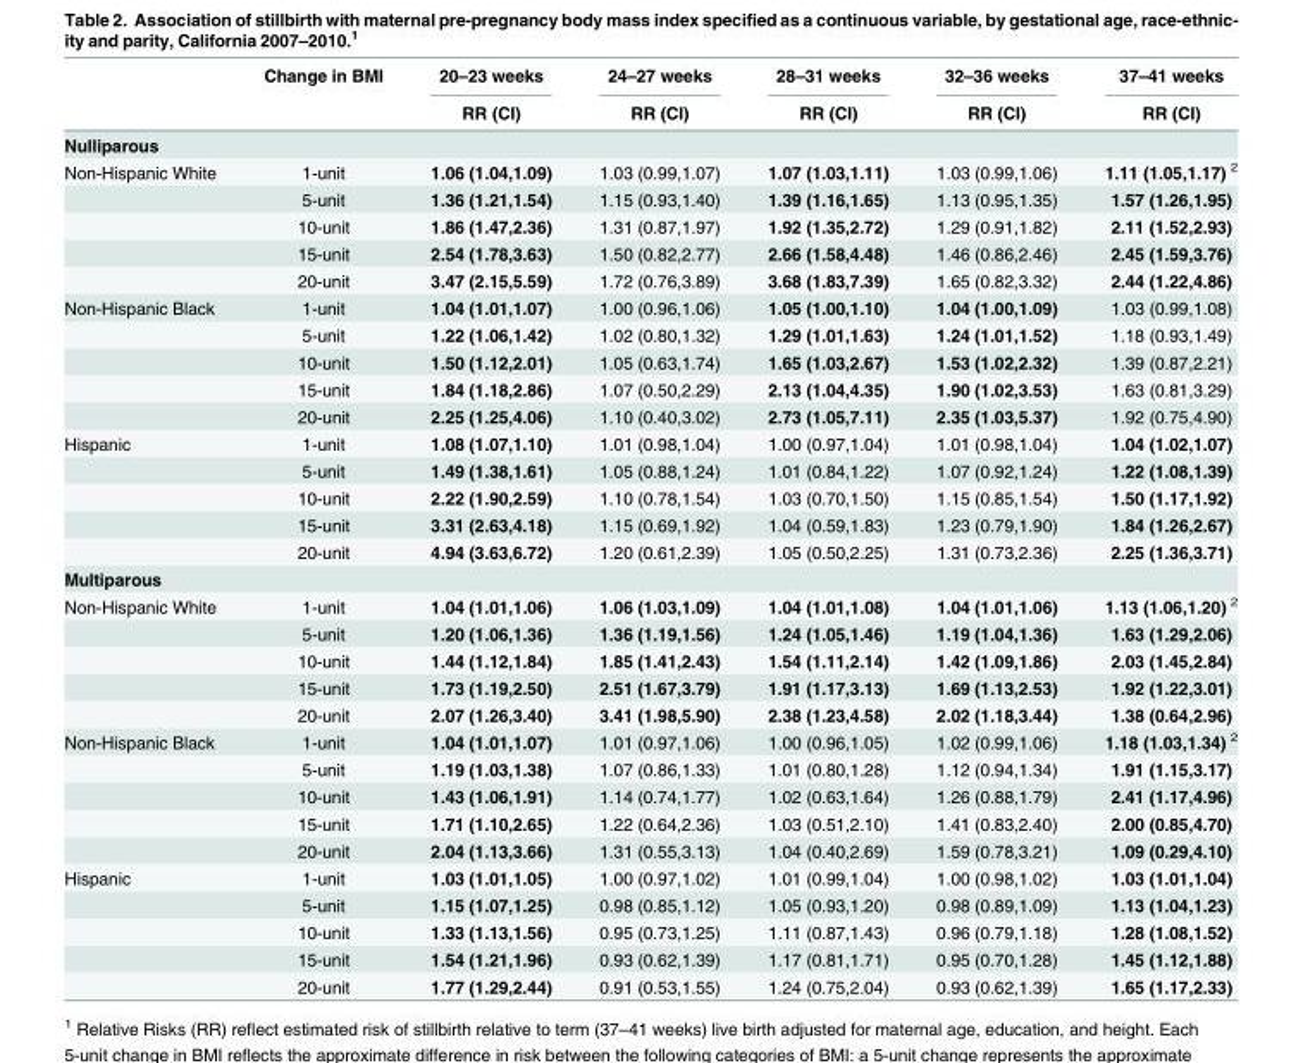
<table><thead><tr><td rowspan="2"></td><td rowspan="2">Change in BMI</td><td rowspan="2">20–23 weeks RR (CI)</td><td rowspan="2">24–27 weeks RR (CI)</td><td rowspan="2">28–31 weeks RR (CI)</td><td rowspan="2">32–36 weeks RR (CI)</td><td rowspan="2">37–41 weeks RR (CI)</td></tr><tr></tr></thead><tbody><tr><td colspan="7">Nulliparous</td></tr><tr><td rowspan="5">Non-Hispanic White</td><td>1-unit</td><td>1.06 (1.04,1.09)</td><td>1.03 (0.99,1.07)</td><td>1.07 (1.03,1.11)</td><td>1.03 (0.99,1.06)</td><td>1.11 (1.05,1.17) <sup>2</sup></td></tr><tr><td>5-unit</td><td>1.36 (1.21,1.54)</td><td>1.15 (0.93,1.40)</td><td>1.39 (1.16,1.65)</td><td>1.13 (0.95,1.35)</td><td>1.57 (1.26,1.95)</td></tr><tr><td>10-unit</td><td>1.86 (1.47,2.36)</td><td>1.31 (0.87,1.97)</td><td>1.92 (1.35,2.72)</td><td>1.29 (0.91,1.82)</td><td>2.11 (1.52,2.93)</td></tr><tr><td>15-unit</td><td>2.54 (1.78,3.63)</td><td>1.50 (0.82,2.77)</td><td>2.66 (1.58,4.48)</td><td>1.46 (0.86,2.46)</td><td>2.45 (1.59,3.76)</td></tr><tr><td>20-unit</td><td>3.47 (2.15,5.59)</td><td>1.72 (0.76,3.89)</td><td>3.68 (1.83,7.39)</td><td>1.65 (0.82,3.32)</td><td>2.44 (1.22,4.86)</td></tr><tr><td rowspan="5">Non-Hispanic Black</td><td>1-unit</td><td>1.04 (1.01,1.07)</td><td>1.00 (0.96,1.06)</td><td>1.05 (1.00,1.10)</td><td>1.04 (1.00,1.09)</td><td>1.03 (0.99,1.08)</td></tr><tr><td>5-unit</td><td>1.22 (1.06,1.42)</td><td>1.02 (0.80,1.32)</td><td>1.29 (1.01,1.63)</td><td>1.24 (1.01,1.52)</td><td>1.18 (0.93,1.49)</td></tr><tr><td>10-unit</td><td>1.50 (1.12,2.01)</td><td>1.05 (0.63,1.74)</td><td>1.65 (1.03,2.67)</td><td>1.53 (1.02,2.32)</td><td>1.39 (0.87,2.21)</td></tr><tr><td>15-unit</td><td>1.84 (1.18,2.86)</td><td>1.07 (0.50,2.29)</td><td>2.13 (1.04,4.35)</td><td>1.90 (1.02,3.53)</td><td>1.63 (0.81,3.29)</td></tr><tr><td>20-unit</td><td>2.25 (1.25,4.06)</td><td>1.10 (0.40,3.02)</td><td>2.73 (1.05,7.11)</td><td>2.35 (1.03,5.37)</td><td>1.92 (0.75,4.90)</td></tr><tr><td rowspan="5">Hispanic</td><td>1-unit</td><td>1.08 (1.07,1.10)</td><td>1.01 (0.98,1.04)</td><td>1.00 (0.97,1.04)</td><td>1.01 (0.98,1.04)</td><td>1.04 (1.02,1.07)</td></tr><tr><td>5-unit</td><td>1.49 (1.38,1.61)</td><td>1.05 (0.88,1.24)</td><td>1.01 (0.84,1.22)</td><td>1.07 (0.92,1.24)</td><td>1.22 (1.08,1.39)</td></tr><tr><td>10-unit</td><td>2.22 (1.90,2.59)</td><td>1.10 (0.78,1.54)</td><td>1.03 (0.70,1.50)</td><td>1.15 (0.85,1.54)</td><td>1.50 (1.17,1.92)</td></tr><tr><td>15-unit</td><td>3.31 (2.63,4.18)</td><td>1.15 (0.69,1.92)</td><td>1.04 (0.59,1.83)</td><td>1.23 (0.79,1.90)</td><td>1.84 (1.26,2.67)</td></tr><tr><td>20-unit</td><td>4.94 (3.63,6.72)</td><td>1.20 (0.61,2.39)</td><td>1.05 (0.50,2.25)</td><td>1.31 (0.73,2.36)</td><td>2.25 (1.36,3.71)</td></tr><tr><td colspan="7">Multiparous</td></tr><tr><td rowspan="5">Non-Hispanic White</td><td>1-unit</td><td>1.04 (1.01,1.06)</td><td>1.06 (1.03,1.09)</td><td>1.04 (1.01,1.08)</td><td>1.04 (1.01,1.06)</td><td>1.13 (1.06,1.20) <sup>2</sup></td></tr><tr><td>5-unit</td><td>1.20 (1.06,1.36)</td><td>1.36 (1.19,1.56)</td><td>1.24 (1.05,1.46)</td><td>1.19 (1.04,1.36)</td><td>1.63 (1.29,2.06)</td></tr><tr><td>10-unit</td><td>1.44 (1.12,1.84)</td><td>1.85 (1.41,2.43)</td><td>1.54 (1.11,2.14)</td><td>1.42 (1.09,1.86)</td><td>2.03 (1.45,2.84)</td></tr><tr><td>15-unit</td><td>1.73 (1.19,2.50)</td><td>2.51 (1.67,3.79)</td><td>1.91 (1.17,3.13)</td><td>1.69 (1.13,2.53)</td><td>1.92 (1.22,3.01)</td></tr><tr><td>20-unit</td><td>2.07 (1.26,3.40)</td><td>3.41 (1.98,5.90)</td><td>2.38 (1.23,4.58)</td><td>2.02 (1.18,3.44)</td><td>1.38 (0.64,2.96)</td></tr><tr><td rowspan="5">Non-Hispanic Black</td><td>1-unit</td><td>1.04 (1.01,1.07)</td><td>1.01 (0.97,1.06)</td><td>1.00 (0.96,1.05)</td><td>1.02 (0.99,1.06)</td><td>1.18 (1.03,1.34) <sup>2</sup></td></tr><tr><td>5-unit</td><td>1.19 (1.03,1.38)</td><td>1.07 (0.86,1.33)</td><td>1.01 (0.80,1.28)</td><td>1.12 (0.94,1.34)</td><td>1.91 (1.15,3.17)</td></tr><tr><td>10-unit</td><td>1.43 (1.06,1.91)</td><td>1.14 (0.74,1.77)</td><td>1.02 (0.63,1.64)</td><td>1.26 (0.88,1.79)</td><td>2.41 (1.17,4.96)</td></tr><tr><td>15-unit</td><td>1.71 (1.10,2.65)</td><td>1.22 (0.64,2.36)</td><td>1.03 (0.51,2.10)</td><td>1.41 (0.83,2.40)</td><td>2.00 (0.85,4.70)</td></tr><tr><td>20-unit</td><td>2.04 (1.13,3.66)</td><td>1.31 (0.55,3.13)</td><td>1.04 (0.40,2.69)</td><td>1.59 (0.78,3.21)</td><td>1.09 (0.29,4.10)</td></tr><tr><td rowspan="5">Hispanic</td><td>1-unit</td><td>1.03 (1.01,1.05)</td><td>1.00 (0.97,1.02)</td><td>1.01 (0.99,1.04)</td><td>1.00 (0.98,1.02)</td><td>1.03 (1.01,1.04)</td></tr><tr><td>5-unit</td><td>1.15 (1.07,1.25)</td><td>0.98 (0.85,1.12)</td><td>1.05 (0.93,1.20)</td><td>0.98 (0.89,1.09)</td><td>1.13 (1.04,1.23)</td></tr><tr><td>10-unit</td><td>1.33 (1.13,1.56)</td><td>0.95 (0.73,1.25)</td><td>1.11 (0.87,1.43)</td><td>0.96 (0.79,1.18)</td><td>1.28 (1.08,1.52)</td></tr><tr><td>15-unit</td><td>1.54 (1.21,1.96)</td><td>0.93 (0.62,1.39)</td><td>1.17 (0.81,1.71)</td><td>0.95 (0.70,1.28)</td><td>1.45 (1.12,1.88)</td></tr><tr><td>20-unit</td><td>1.77 (1.29,2.44)</td><td>0.91 (0.53,1.55)</td><td>1.24 (0.75,2.04)</td><td>0.93 (0.62,1.39)</td><td>1.65 (1.17,2.33)</td></tr></tbody></table>